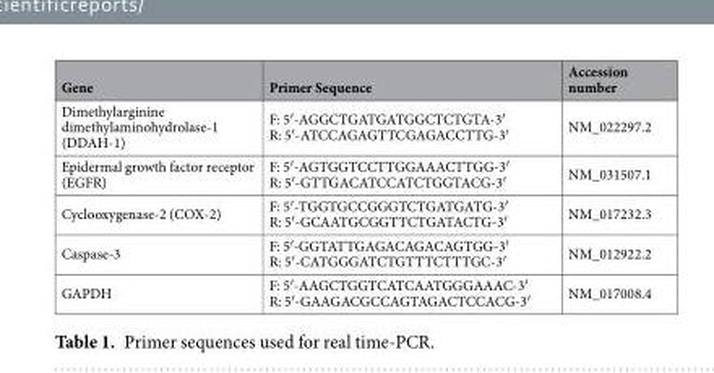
<table><thead><tr><td>Gene</td><td>Primer Sequence</td><td>Accession number</td></tr></thead><tbody><tr><td>Dimethylarginine dimethylaminohydrolase-1 (DDAH-1)</td><td>F: 5′-AGGCTGATGATGGCTCTGTA-3′ R: 5′-ATCCAGAGTTCGAGACCTTG-3′</td><td>NM_022297.2</td></tr><tr><td>Epidermal growth factor receptor (EGFR)</td><td>F: 5′-AGTGGTCCTTGGAAACTTGG-3′ R: 5′-GTTGACATCCATCTGGTACG-3′</td><td>NM_031507.1</td></tr><tr><td>Cyclooxygenase-2 (COX-2)</td><td>F: 5′-TGGTGCCGGGTCTGATGATG-3′ R: 5′-GCAATGCGGTTCTGATACTG-3′</td><td>NM_017232.3</td></tr><tr><td>Caspase-3</td><td>F: 5′-GGTATTGAGACAGACAGTGG-3′ R: 5′-CATGGGATCTGTTTCTTTGC-3′</td><td>NM_012922.2</td></tr><tr><td>GAPDH</td><td>F: 5′-AAGCTGGTCATCAATGGGAAAC-3′ R: 5′-GAAGACGCCAGTAGACTCCACG-3′</td><td>NM_017008.4</td></tr></tbody></table>